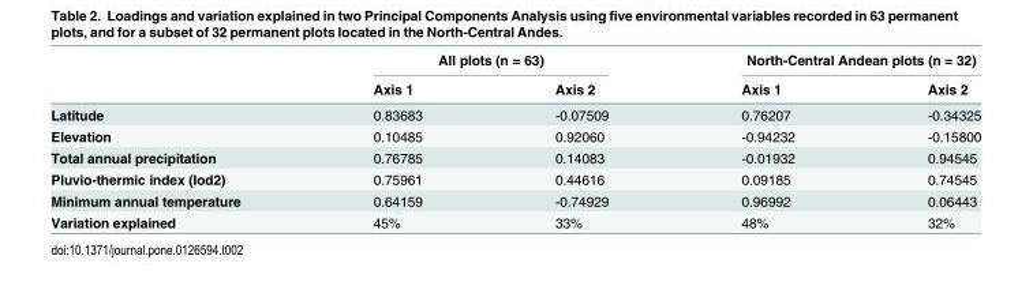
<table><thead><tr><td rowspan="2"></td><td colspan="2">All plots (n = 63)</td><td colspan="2">North-Central Andean plots (n = 32)</td></tr><tr><td>Axis 1</td><td>Axis 2</td><td>Axis 1</td><td>Axis 2</td></tr></thead><tbody><tr><td>Latitude</td><td>0.83683</td><td>-0.07509</td><td>0.76207</td><td>-0.34325</td></tr><tr><td>Elevation</td><td>0.10485</td><td>0.92060</td><td>-0.94232</td><td>-0.15800</td></tr><tr><td>Total annual precipitation</td><td>0.76785</td><td>0.14083</td><td>-0.01932</td><td>0.94545</td></tr><tr><td>Pluvio-thermic index (Iod2)</td><td>0.75961</td><td>0.44616</td><td>0.09185</td><td>0.74545</td></tr><tr><td>Minimum annual temperature</td><td>0.64159</td><td>-0.74929</td><td>0.96992</td><td>0.06443</td></tr><tr><td>Variation explained</td><td>45%</td><td>33%</td><td>48%</td><td>32%</td></tr></tbody></table>